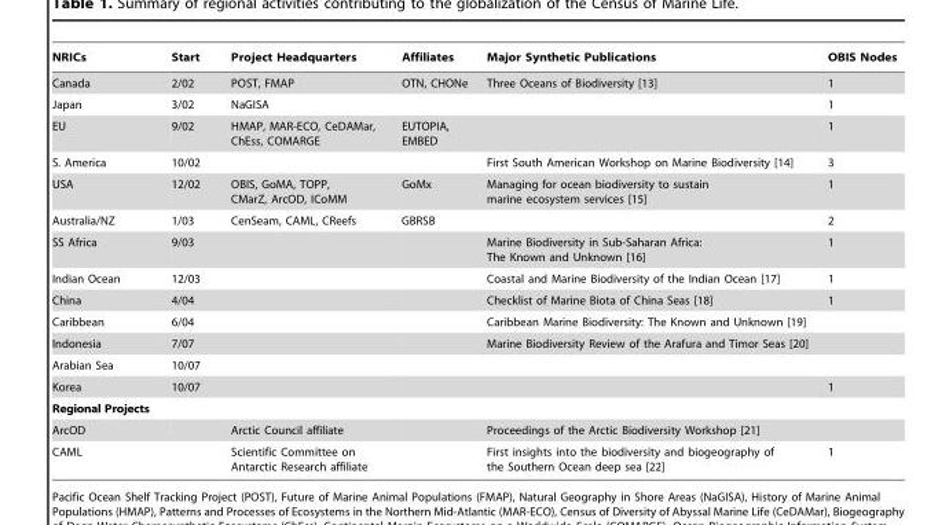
<table><thead><tr><td>NRICs</td><td>Start</td><td>Project Headquarters</td><td>Affiliates</td><td>Major Synthetic Publications</td><td>OBIS Nodes</td></tr></thead><tbody><tr><td>Canada</td><td>2/02</td><td>POST, FMAP</td><td>OTN, CHONe</td><td>Three Oceans of Biodiversity [13]</td><td>1</td></tr><tr><td>Japan</td><td>3/02</td><td>NaGISA</td><td></td><td></td><td>1</td></tr><tr><td>EU</td><td>9/02</td><td>HMAP, MAR-ECO, CeDAMar, ChEss, COMARGE</td><td>EUTOPIA, EMBED</td><td></td><td>1</td></tr><tr><td>S. America</td><td>10/02</td><td></td><td></td><td>First South American Workshop on Marine Biodiversity [14]</td><td>3</td></tr><tr><td>USA</td><td>12/02</td><td>OBIS, GoMA, TOPP, CMarZ, ArcOD, ICoMM</td><td>GoMx</td><td>Managing for ocean biodiversity to sustain marine ecosystem services [15]</td><td>1</td></tr><tr><td>Australia/NZ</td><td>1/03</td><td>CenSeam, CAML, CReefs</td><td>GBRSB</td><td></td><td>2</td></tr><tr><td>SS Africa</td><td>9/03</td><td></td><td></td><td>Marine Biodiversity in Sub-Saharan Africa: The Known and Unknown [16]</td><td>1</td></tr><tr><td>Indian Ocean</td><td>12/03</td><td></td><td></td><td>Coastal and Marine Biodiversity of the Indian Ocean [17]</td><td>1</td></tr><tr><td>China</td><td>4/04</td><td></td><td></td><td>Checklist of Marine Biota of China Seas [18]</td><td>1</td></tr><tr><td>Caribbean</td><td>6/04</td><td></td><td></td><td>Caribbean Marine Biodiversity: The Known and Unknown [19]</td><td></td></tr><tr><td>Indonesia</td><td>7/07</td><td></td><td></td><td>Marine Biodiversity Review of the Arafura and Timor Seas [20]</td><td></td></tr><tr><td>Arabian Sea</td><td>10/07</td><td></td><td></td><td></td><td></td></tr><tr><td>Korea</td><td>10/07</td><td></td><td></td><td></td><td>1</td></tr><tr><td colspan="6">Regional Projects</td></tr><tr><td>ArcOD</td><td></td><td>Arctic Council affiliate</td><td></td><td>Proceedings of the Arctic Biodiversity Workshop [21]</td><td></td></tr><tr><td>CAML</td><td></td><td>Scientific Committee on Antarctic Research affiliate</td><td></td><td>First insights into the biodiversity and biogeography of the Southern Ocean deep sea [22]</td><td>1</td></tr></tbody></table>